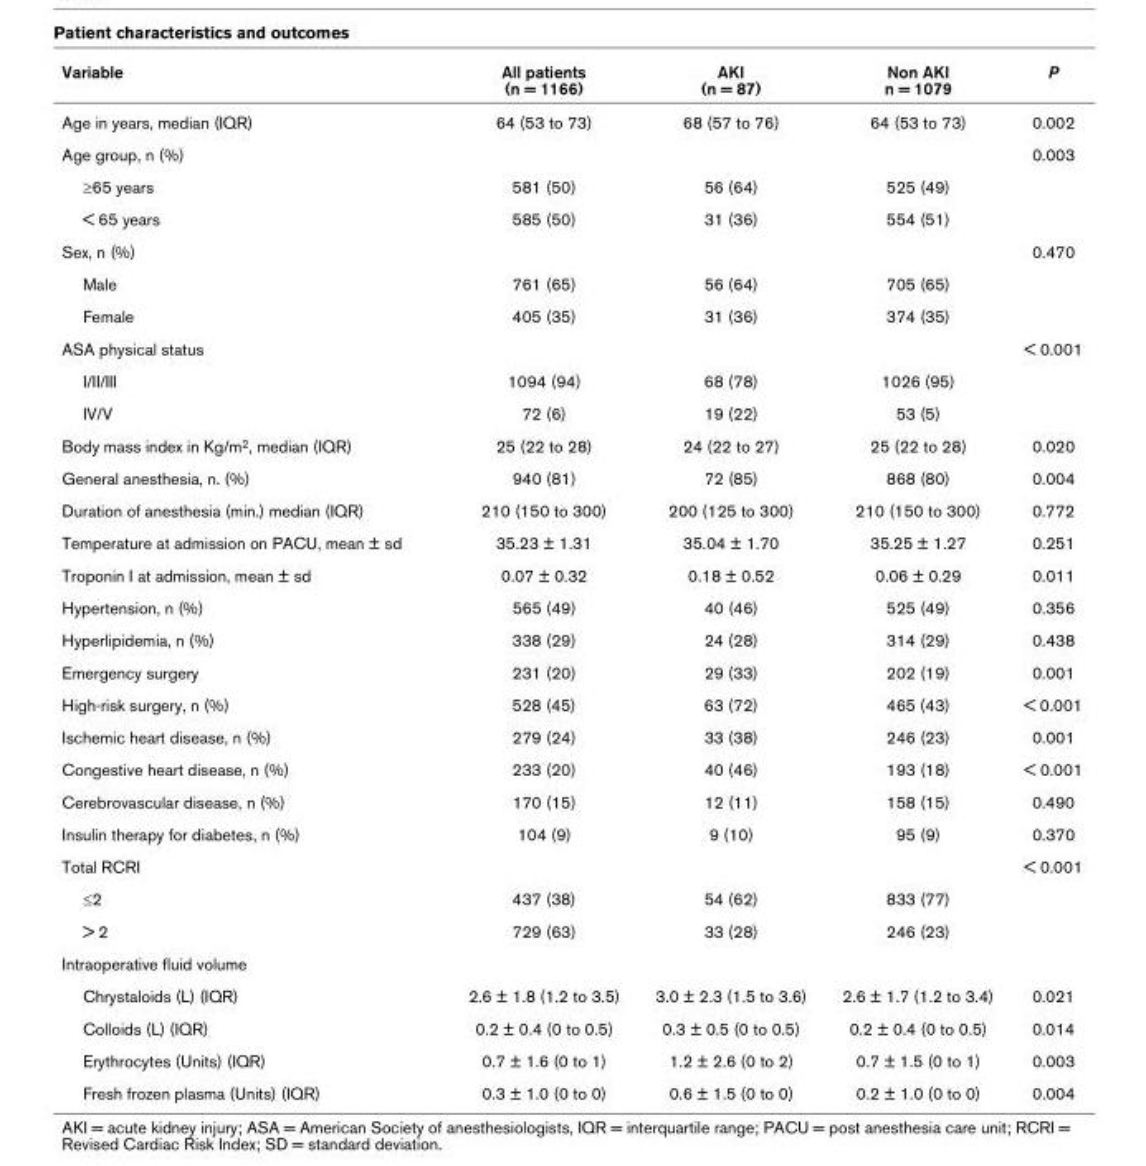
<table><thead><tr><td>Variable</td><td>All patients (n = 1166)</td><td>AKI (n = 87)</td><td>Non AKI n = 1079</td><td>P</td></tr></thead><tbody><tr><td>Age in years, median (IQR)</td><td>64 (53 to 73)</td><td>68 (57 to 76)</td><td>64 (53 to 73)</td><td>0.002</td></tr><tr><td>Age group, n (%)</td><td></td><td></td><td></td><td>0.003</td></tr><tr><td>≥65 years</td><td>581 (50)</td><td>56 (64)</td><td>525 (49)</td><td></td></tr><tr><td>&lt; 65 years</td><td>585 (50)</td><td>31 (36)</td><td>554 (51)</td><td></td></tr><tr><td>Sex, n (%)</td><td></td><td></td><td></td><td>0.470</td></tr><tr><td>Male</td><td>761 (65)</td><td>56 (64)</td><td>705 (65)</td><td></td></tr><tr><td>Female</td><td>405 (35)</td><td>31 (36)</td><td>374 (35)</td><td></td></tr><tr><td>ASA physical status</td><td></td><td></td><td></td><td>&lt; 0.001</td></tr><tr><td>I/II/III</td><td>1094 (94)</td><td>68 (78)</td><td>1026 (95)</td><td></td></tr><tr><td>IV/V</td><td>72 (6)</td><td>19 (22)</td><td>53 (5)</td><td></td></tr><tr><td>Body mass index in Kg/m<sup>2</sup>, median (IQR)</td><td>25 (22 to 28)</td><td>24 (22 to 27)</td><td>25 (22 to 28)</td><td>0.020</td></tr><tr><td>General anesthesia, n. (%)</td><td>940 (81)</td><td>72 (85)</td><td>868 (80)</td><td>0.004</td></tr><tr><td>Duration of anesthesia (min.) median (IQR)</td><td>210 (150 to 300)</td><td>200 (125 to 300)</td><td>210 (150 to 300)</td><td>0.772</td></tr><tr><td>Temperature at admission on PACU, mean ± sd</td><td>35.23 ± 1.31</td><td>35.04 ± 1.70</td><td>35.25 ± 1.27</td><td>0.251</td></tr><tr><td>Troponin I at admission, mean ± sd</td><td>0.07 ± 0.32</td><td>0.18 ± 0.52</td><td>0.06 ± 0.29</td><td>0.011</td></tr><tr><td>Hypertension, n (%)</td><td>565 (49)</td><td>40 (46)</td><td>525 (49)</td><td>0.356</td></tr><tr><td>Hyperlipidemia, n (%)</td><td>338 (29)</td><td>24 (28)</td><td>314 (29)</td><td>0.438</td></tr><tr><td>Emergency surgery</td><td>231 (20)</td><td>29 (33)</td><td>202 (19)</td><td>0.001</td></tr><tr><td>High-risk surgery, n (%)</td><td>528 (45)</td><td>63 (72)</td><td>465 (43)</td><td>&lt; 0.001</td></tr><tr><td>Ischemic heart disease, n (%)</td><td>279 (24)</td><td>33 (38)</td><td>246 (23)</td><td>0.001</td></tr><tr><td>Congestive heart disease, n (%)</td><td>233 (20)</td><td>40 (46)</td><td>193 (18)</td><td>&lt; 0.001</td></tr><tr><td>Cerebrovascular disease, n (%)</td><td>170 (15)</td><td>12 (11)</td><td>158 (15)</td><td>0.490</td></tr><tr><td>Insulin therapy for diabetes, n (%)</td><td>104 (9)</td><td>9 (10)</td><td>95 (9)</td><td>0.370</td></tr><tr><td>Total RCRI</td><td></td><td></td><td></td><td>&lt; 0.001</td></tr><tr><td>≤2</td><td>437 (38)</td><td>54 (62)</td><td>833 (77)</td><td></td></tr><tr><td>&gt; 2</td><td>729 (63)</td><td>33 (28)</td><td>246 (23)</td><td></td></tr><tr><td colspan="5">Intraoperative fluid volume</td></tr><tr><td>Chrystaloids (L) (IQR)</td><td>2.6 ± 1.8 (1.2 to 3.5)</td><td>3.0 ± 2.3 (1.5 to 3.6)</td><td>2.6 ± 1.7 (1.2 to 3.4)</td><td>0.021</td></tr><tr><td>Colloids (L) (IQR)</td><td>0.2 ± 0.4 (0 to 0.5)</td><td>0.3 ± 0.5 (0 to 0.5)</td><td>0.2 ± 0.4 (0 to 0.5)</td><td>0.014</td></tr><tr><td>Erythrocytes (Units) (IQR)</td><td>0.7 ± 1.6 (0 to 1)</td><td>1.2 ± 2.6 (0 to 2)</td><td>0.7 ± 1.5 (0 to 1)</td><td>0.003</td></tr><tr><td>Fresh frozen plasma (Units) (IQR)</td><td>0.3 ± 1.0 (0 to 0)</td><td>0.6 ± 1.5 (0 to 0)</td><td>0.2 ± 1.0 (0 to 0)</td><td>0.004</td></tr></tbody></table>